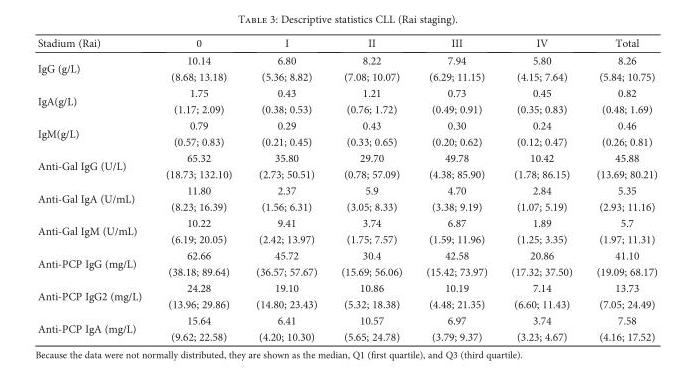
<table><thead><tr><td>Stadium (Rai)</td><td>0</td><td>I</td><td>II</td><td>III</td><td>IV</td><td>Total</td></tr></thead><tbody><tr><td rowspan="2">IgG (g/L)</td><td>10.14</td><td>6.80</td><td>8.22</td><td>7.94</td><td>5.80</td><td>8.26</td></tr><tr><td>(8.68; 13.18)</td><td>(5.36; 8.82)</td><td>(7.08; 10.07)</td><td>(6.29; 11.15)</td><td>(4.15; 7.64)</td><td>(5.84; 10.75)</td></tr><tr><td rowspan="2">IgA(g/L)</td><td>1.75</td><td>0.43</td><td>1.21</td><td>0.73</td><td>0.45</td><td>0.82</td></tr><tr><td>(1.17; 2.09)</td><td>(0.38; 0.53)</td><td>(0.76; 1.72)</td><td>(0.49; 0.91)</td><td>(0.35; 0.83)</td><td>(0.48; 1.69)</td></tr><tr><td rowspan="2">IgM(g/L)</td><td>0.79</td><td>0.29</td><td>0.43</td><td>0.30</td><td>0.24</td><td>0.46</td></tr><tr><td>(0.57; 0.83)</td><td>(0.21; 0.45)</td><td>(0.33; 0.65)</td><td>(0.20; 0.62)</td><td>(0.12; 0.47)</td><td>(0.26; 0.81)</td></tr><tr><td rowspan="2">Anti-Gal IgG (U/L)</td><td>65.32</td><td>35.80</td><td>29.70</td><td>49.78</td><td>10.42</td><td>45.88</td></tr><tr><td>(18.73; 132.10)</td><td>(2.73; 50.51)</td><td>(0.78; 57.09)</td><td>(4.38; 85.90)</td><td>(1.78; 86.15)</td><td>(13.69; 80.21)</td></tr><tr><td rowspan="2">Anti-Gal IgA (U/mL)</td><td>11.80</td><td>2.37</td><td>5.9</td><td>4.70</td><td>2.84</td><td>5.35</td></tr><tr><td>(8.23; 16.39)</td><td>(1.56; 6.31)</td><td>(3.05; 8.33)</td><td>(3.38; 9.19)</td><td>(1.07; 5.19)</td><td>(2.93; 11.16)</td></tr><tr><td rowspan="2">Anti-Gal IgM (U/mL)</td><td>10.22</td><td>9.41</td><td>3.74</td><td>6.87</td><td>1.89</td><td>5.7</td></tr><tr><td>(6.19; 20.05)</td><td>(2.42; 13.97)</td><td>(1.75; 7.57)</td><td>(1.59; 11.96)</td><td>(1.25; 3.35)</td><td>(1.97; 11.31)</td></tr><tr><td rowspan="2">Anti-PCP IgG (mg/L)</td><td>62.66</td><td>45.72</td><td>30.4</td><td>42.58</td><td>20.86</td><td>41.10</td></tr><tr><td>(38.18; 89.64)</td><td>(36.57; 57.67)</td><td>(15.69; 56.06)</td><td>(15.42; 73.97)</td><td>(17.32; 37.50)</td><td>(19.09; 68.17)</td></tr><tr><td rowspan="2">Anti-PCP IgG2 (mg/L)</td><td>24.28</td><td>19.10</td><td>10.86</td><td>10.19</td><td>7.14</td><td>13.73</td></tr><tr><td>(13.96; 29.86)</td><td>(14.80; 23.43)</td><td>(5.32; 18.38)</td><td>(4.48; 21.35)</td><td>(6.60; 11.43)</td><td>(7.05; 24.49)</td></tr><tr><td rowspan="2">Anti-PCP IgA (mg/L)</td><td>15.64</td><td>6.41</td><td>10.57</td><td>6.97</td><td>3.74</td><td>7.58</td></tr><tr><td>(9.62; 22.58)</td><td>(4.20; 10.30)</td><td>(5.65; 24.78)</td><td>(3.79; 9.37)</td><td>(3.23; 4.67)</td><td>(4.16; 17.52)</td></tr></tbody></table>